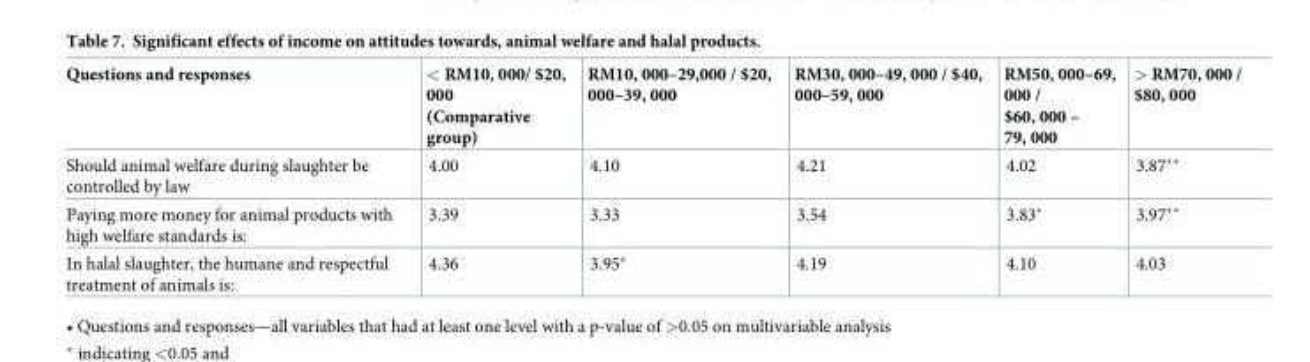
<table><thead><tr><td>Questions and responses</td><td>&lt; RM10, 000/ $20, 000 (Comparative group)</td><td>RM10, 000–29,000 / $20, 000–39, 000</td><td>RM30, 000–49, 000 / $40, 000–59, 000</td><td>RM50, 000–69, 000 / $60, 000 – 79, 000</td><td>&gt; RM70, 000 / $80, 000</td></tr></thead><tbody><tr><td>Should animal welfare during slaughter be controlled by law</td><td>4.00</td><td>4.10</td><td>4.21</td><td>4.02</td><td>3.87**</td></tr><tr><td>Paying more money for animal products with high welfare standards is:</td><td>3.39</td><td>3.33</td><td>3.54</td><td>3.83*</td><td>3.97**</td></tr><tr><td>In halal slaughter, the humane and respectful treatment of animals is:</td><td>4.36</td><td>3.95*</td><td>4.19</td><td>4.10</td><td>4.03</td></tr></tbody></table>